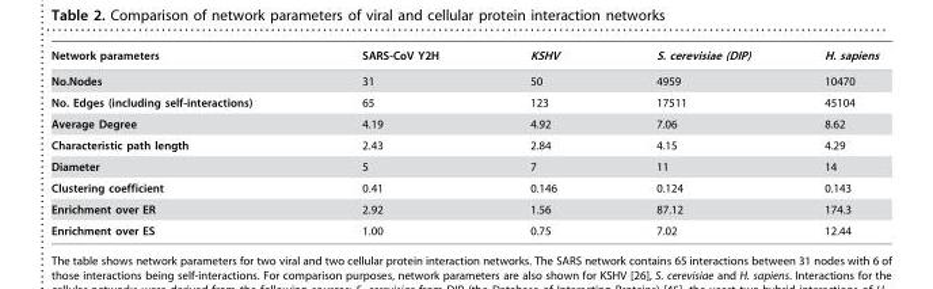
<table><thead><tr><td>Network parameters</td><td>SARS-CoV Y2H</td><td>KSHV</td><td>S. cerevisiae (DIP)</td><td>H. sapiens</td></tr></thead><tbody><tr><td>No.Nodes</td><td>31</td><td>50</td><td>4959</td><td>10470</td></tr><tr><td>No. Edges (including self-interactions)</td><td>65</td><td>123</td><td>17511</td><td>45104</td></tr><tr><td>Average Degree</td><td>4.19</td><td>4.92</td><td>7.06</td><td>8.62</td></tr><tr><td>Characteristic path length</td><td>2.43</td><td>2.84</td><td>4.15</td><td>4.29</td></tr><tr><td>Diameter</td><td>5</td><td>7</td><td>11</td><td>14</td></tr><tr><td>Clustering coefficient</td><td>0.41</td><td>0.146</td><td>0.124</td><td>0.143</td></tr><tr><td>Enrichment over ER</td><td>2.92</td><td>1.56</td><td>87.12</td><td>174.3</td></tr><tr><td>Enrichment over ES</td><td>1.00</td><td>0.75</td><td>7.02</td><td>12.44</td></tr></tbody></table>